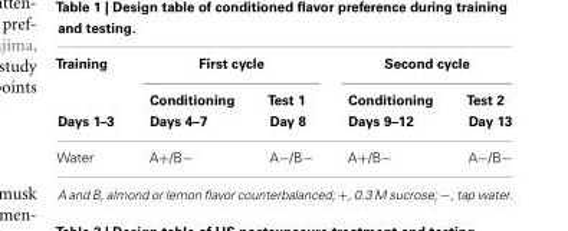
<table><thead><tr><td rowspan="3">Training Days 1–3</td><td colspan="2">First cycle</td><td colspan="2">Second cycle</td></tr><tr><td rowspan="2">Conditioning Days 4–7</td><td rowspan="2">Test 1 Day 8</td><td rowspan="2">Conditioning Days 9–12</td><td rowspan="2">Test 2 Day 13</td></tr><tr></tr></thead><tbody><tr><td>Water</td><td>A+/B−</td><td>A−/B−</td><td>A+/B−</td><td>A−/B−</td></tr></tbody></table>